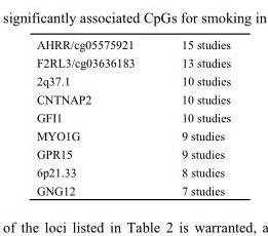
<table><tbody><tr><td>AHRR/cg05575921</td><td>15 studies</td></tr><tr><td>F2RL3/cg03636183</td><td>13 studies</td></tr><tr><td>2q37.1</td><td>10 studies</td></tr><tr><td>CNTNAP2</td><td>10 studies</td></tr><tr><td>GFI1</td><td>10 studies</td></tr><tr><td>MYO1G</td><td>9 studies</td></tr><tr><td>GPR15</td><td>9 studies</td></tr><tr><td>6p21.33</td><td>8 studies</td></tr><tr><td>GNG12</td><td>7 studies</td></tr></tbody></table>